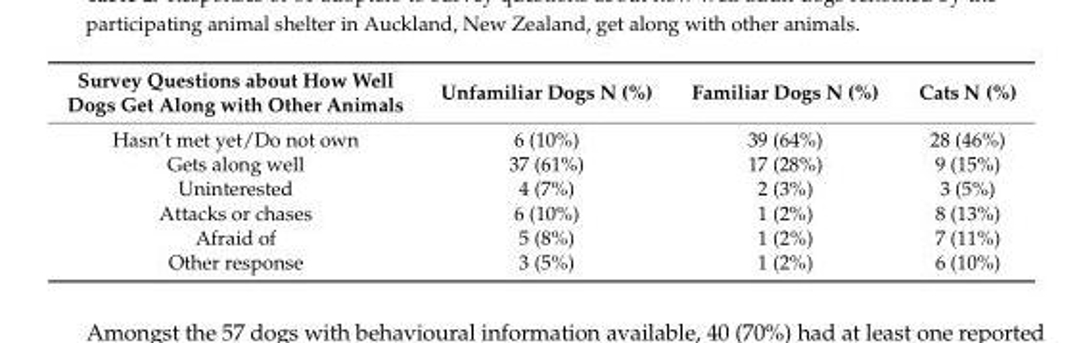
<table><thead><tr><td>Survey Questions about How Well Dogs Get Along with Other Animals</td><td>Unfamiliar Dogs N (%)</td><td>Familiar Dogs N (%)</td><td>Cats N (%)</td></tr></thead><tbody><tr><td>Hasn’t met yet/Do not own</td><td>6 (10%)</td><td>39 (64%)</td><td>28 (46%)</td></tr><tr><td>Gets along well</td><td>37 (61%)</td><td>17 (28%)</td><td>9 (15%)</td></tr><tr><td>Uninterested</td><td>4 (7%)</td><td>2 (3%)</td><td>3 (5%)</td></tr><tr><td>Attacks or chases</td><td>6 (10%)</td><td>1 (2%)</td><td>8 (13%)</td></tr><tr><td>Afraid of</td><td>5 (8%)</td><td>1 (2%)</td><td>7 (11%)</td></tr><tr><td>Other response</td><td>3 (5%)</td><td>1 (2%)</td><td>6 (10%)</td></tr></tbody></table>